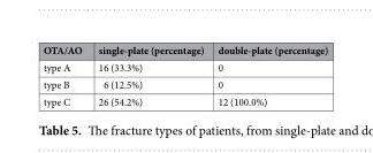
<table><thead><tr><td>OTA/AO</td><td>single-plate (percentage)</td><td>double-plate (percentage)</td></tr></thead><tbody><tr><td>type A</td><td>16 (33.3%)</td><td>0</td></tr><tr><td>type B</td><td>6 (12.5%)</td><td>0</td></tr><tr><td>type C</td><td>26 (54.2%)</td><td>12 (100.0%)</td></tr></tbody></table>